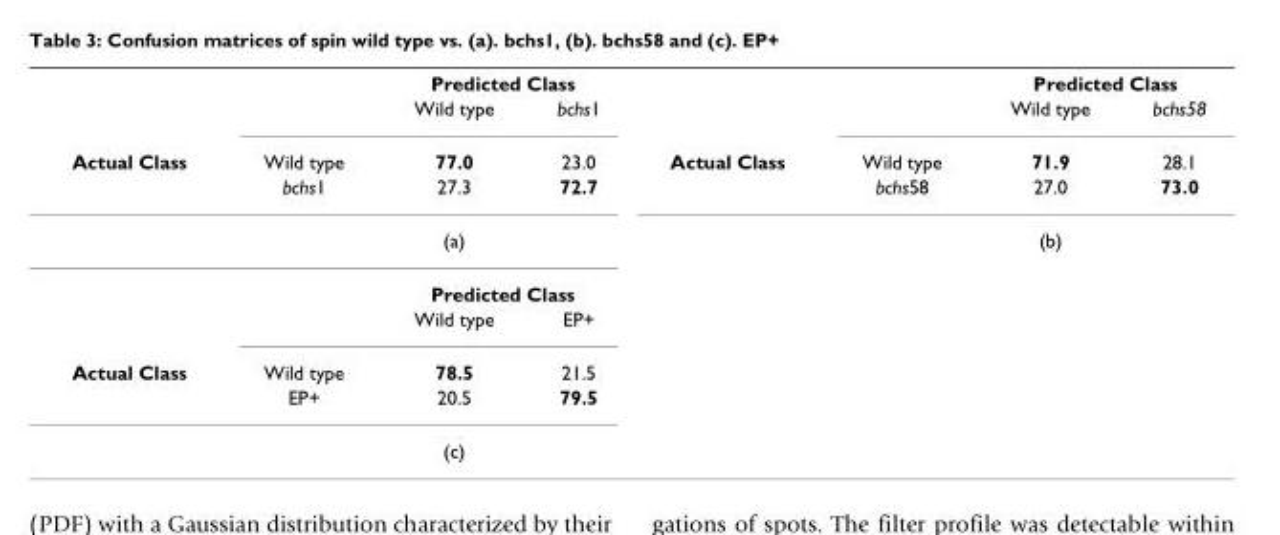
<table><thead><tr><td rowspan="2"></td><td rowspan="2"></td><td colspan="2">Predicted Class</td><td rowspan="2"></td><td rowspan="2"></td><td colspan="2">Predicted Class</td></tr><tr><td>Wild type</td><td>bchs1</td><td>Wild type</td><td>bchs58</td></tr></thead><tbody><tr><td rowspan="5">Actual Class</td><td>Wild type</td><td>77.0</td><td>23.0</td><td>Actual Class</td><td>Wild type</td><td>71.9</td><td>28.1</td></tr><tr><td>bchs1</td><td>27.3</td><td>72.7</td><td></td><td>bchs58</td><td>27.0</td><td>73.0</td></tr><tr><td></td><td>(a)</td><td></td><td></td><td></td><td>(b)</td><td></td></tr><tr><td></td><td colspan="2">Predicted Class</td><td></td><td></td><td></td><td></td></tr><tr><td></td><td>Wild type</td><td>EP+</td><td></td><td></td><td></td><td></td></tr><tr><td rowspan="3">Actual Class</td><td>Wild type</td><td>78.5</td><td>21.5</td><td></td><td></td><td></td><td></td></tr><tr><td>EP+</td><td>20.5</td><td>79.5</td><td></td><td></td><td></td><td></td></tr><tr><td></td><td>(c)</td><td></td><td></td><td></td><td></td><td></td></tr></tbody></table>